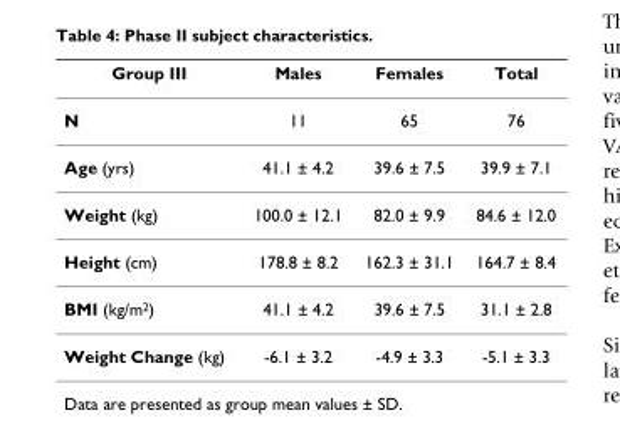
<table><thead><tr><td>Group III</td><td>Males</td><td>Females</td><td>Total</td></tr></thead><tbody><tr><td>N</td><td>11</td><td>65</td><td>76</td></tr><tr><td>Age (yrs)</td><td>41.1 ± 4.2</td><td>39.6 ± 7.5</td><td>39.9 ± 7.1</td></tr><tr><td>Weight (kg)</td><td>100.0 ± 12.1</td><td>82.0 ± 9.9</td><td>84.6 ± 12.0</td></tr><tr><td>Height (cm)</td><td>178.8 ± 8.2</td><td>162.3 ± 31.1</td><td>164.7 ± 8.4</td></tr><tr><td>BMI (kg/m<sup>2</sup>)</td><td>41.1 ± 4.2</td><td>39.6 ± 7.5</td><td>31.1 ± 2.8</td></tr><tr><td>Weight Change (kg)</td><td>-6.1 ± 3.2</td><td>-4.9 ± 3.3</td><td>-5.1 ± 3.3</td></tr></tbody></table>